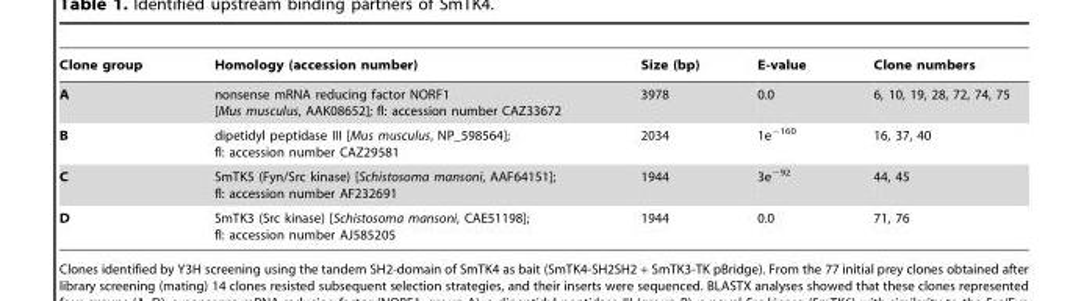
<table><thead><tr><td>Clone group</td><td>Homology (accession number)</td><td>Size (bp)</td><td>E-value</td><td>Clone numbers</td></tr></thead><tbody><tr><td>A</td><td>nonsense mRNA reducing factor NORF1 [Mus musculus, AAK08652]; fl: accession number CAZ33672</td><td>3978</td><td>0.0</td><td>6, 10, 19, 28, 72, 74, 75</td></tr><tr><td>B</td><td>dipetidyl peptidase III [Mus musculus, NP_598564]; fl: accession number CAZ29581</td><td>2034</td><td>1e<sup>−160</sup></td><td>16, 37, 40</td></tr><tr><td>C</td><td>SmTK5 (Fyn/Src kinase) [Schistosoma mansoni, AAF64151]; fl: accession number AF232691</td><td>1944</td><td>3e<sup>−92</sup></td><td>44, 45</td></tr><tr><td>D</td><td>SmTK3 (Src kinase) [Schistosoma mansoni, CAE51198]; fl: accession number AJ585205</td><td>1944</td><td>0.0</td><td>71, 76</td></tr></tbody></table>